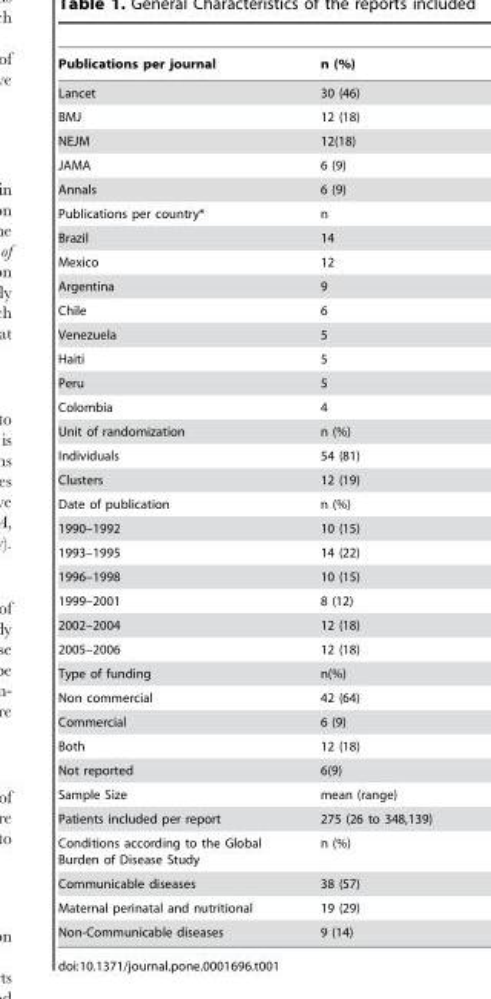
<table><thead><tr><td>Publications per journal</td><td>n (%)</td></tr></thead><tbody><tr><td>Lancet</td><td>30 (46)</td></tr><tr><td>BMJ</td><td>12 (18)</td></tr><tr><td>NEJM</td><td>12(18)</td></tr><tr><td>JAMA</td><td>6 (9)</td></tr><tr><td>Annals</td><td>6 (9)</td></tr><tr><td>Publications per country*</td><td>n</td></tr><tr><td>Brazil</td><td>14</td></tr><tr><td>Mexico</td><td>12</td></tr><tr><td>Argentina</td><td>9</td></tr><tr><td>Chile</td><td>6</td></tr><tr><td>Venezuela</td><td>5</td></tr><tr><td>Haiti</td><td>5</td></tr><tr><td>Peru</td><td>5</td></tr><tr><td>Colombia</td><td>4</td></tr><tr><td>Unit of randomization</td><td>n (%)</td></tr><tr><td>Individuals</td><td>54 (81)</td></tr><tr><td>Clusters</td><td>12 (19)</td></tr><tr><td>Date of publication</td><td>n (%)</td></tr><tr><td>1990–1992</td><td>10 (15)</td></tr><tr><td>1993–1995</td><td>14 (22)</td></tr><tr><td>1996–1998</td><td>10 (15)</td></tr><tr><td>1999–2001</td><td>8 (12)</td></tr><tr><td>2002–2004</td><td>12 (18)</td></tr><tr><td>2005–2006</td><td>12 (18)</td></tr><tr><td>Type of funding</td><td>n(%)</td></tr><tr><td>Non commercial</td><td>42 (64)</td></tr><tr><td>Commercial</td><td>6 (9)</td></tr><tr><td>Both</td><td>12 (18)</td></tr><tr><td>Not reported</td><td>6(9)</td></tr><tr><td>Sample Size</td><td>mean (range)</td></tr><tr><td>Patients included per report</td><td>275 (26 to 348,139)</td></tr><tr><td>Conditions according to the Global Burden of Disease Study</td><td>n (%)</td></tr><tr><td>Communicable diseases</td><td>38 (57)</td></tr><tr><td>Maternal perinatal and nutritional</td><td>19 (29)</td></tr><tr><td>Non-Communicable diseases</td><td>9 (14)</td></tr></tbody></table>